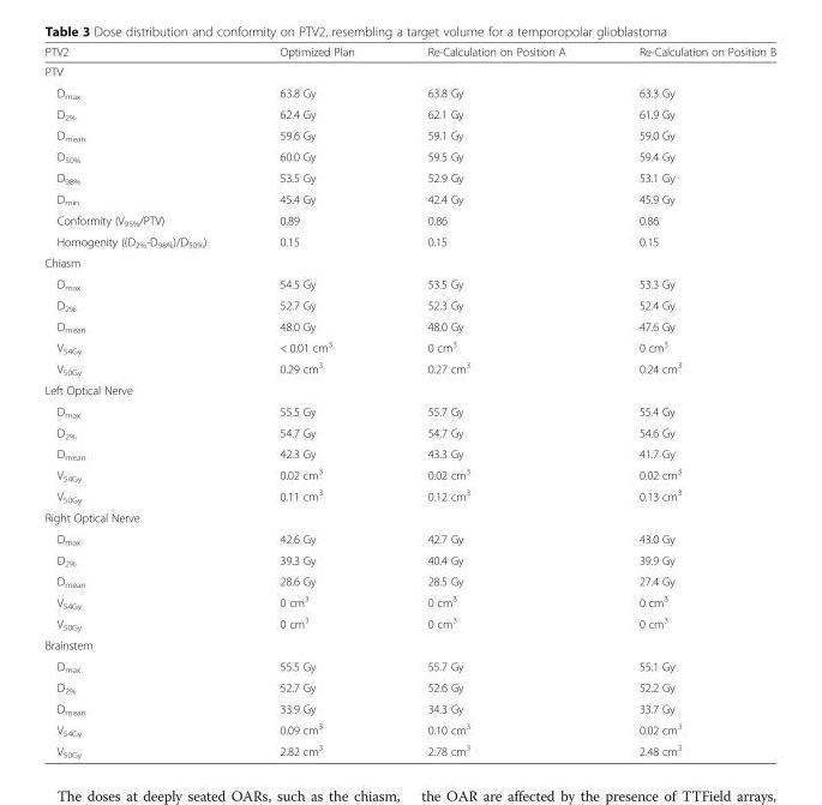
<table><thead><tr><td>PTV2</td><td>Optimized Plan</td><td>Re-Calculation on Position A</td><td>Re-Calculation on Position B</td></tr></thead><tbody><tr><td colspan="4">PTV</td></tr><tr><td>D<sub>max</sub></td><td>63.8 Gy</td><td>63.8 Gy</td><td>63.3 Gy</td></tr><tr><td>D<sub>2%</sub></td><td>62.4 Gy</td><td>62.1 Gy</td><td>61.9 Gy</td></tr><tr><td>D<sub>mean</sub></td><td>59.6 Gy</td><td>59.1 Gy</td><td>59.0 Gy</td></tr><tr><td>D<sub>50%</sub></td><td>60.0 Gy</td><td>59.5 Gy</td><td>59.4 Gy</td></tr><tr><td>D<sub>98%</sub></td><td>53.5 Gy</td><td>52.9 Gy</td><td>53.1 Gy</td></tr><tr><td>D<sub>min</sub></td><td>45.4 Gy</td><td>42.4 Gy</td><td>45.9 Gy</td></tr><tr><td>Conformity (V<sub>95%</sub>/PTV)</td><td>0.89</td><td>0.86</td><td>0.86</td></tr><tr><td>Homogenity ((D<sub>2%</sub>-D<sub>98%</sub>)/D<sub>50%</sub>)</td><td>0.15</td><td>0.15</td><td>0.15</td></tr><tr><td colspan="4">Chiasm</td></tr><tr><td>D<sub>max</sub></td><td>54.5 Gy</td><td>53.5 Gy</td><td>53.3 Gy</td></tr><tr><td>D<sub>2%</sub></td><td>52.7 Gy</td><td>52.3 Gy</td><td>52.4 Gy</td></tr><tr><td>D<sub>mean</sub></td><td>48.0 Gy</td><td>48.0 Gy</td><td>47.6 Gy</td></tr><tr><td>V<sub>54Gy</sub></td><td>&lt; 0.01 cm<sup>3</sup></td><td>0 cm<sup>3</sup></td><td>0 cm<sup>3</sup></td></tr><tr><td>V<sub>50Gy</sub></td><td>0.29 cm<sup>3</sup></td><td>0.27 cm<sup>3</sup></td><td>0.24 cm<sup>3</sup></td></tr><tr><td colspan="4">Left Optical Nerve</td></tr><tr><td>D<sub>max</sub></td><td>55.5 Gy</td><td>55.7 Gy</td><td>55.4 Gy</td></tr><tr><td>D<sub>2%</sub></td><td>54.7 Gy</td><td>54.7 Gy</td><td>54.6 Gy</td></tr><tr><td>D<sub>mean</sub></td><td>42.3 Gy</td><td>43.3 Gy</td><td>41.7 Gy</td></tr><tr><td>V<sub>54Gy</sub></td><td>0.02 cm<sup>3</sup></td><td>0.02 cm<sup>3</sup></td><td>0.02 cm<sup>3</sup></td></tr><tr><td>V<sub>50Gy</sub></td><td>0.11 cm<sup>3</sup></td><td>0.12 cm<sup>3</sup></td><td>0.13 cm<sup>3</sup></td></tr><tr><td colspan="4">Right Optical Nerve</td></tr><tr><td>D<sub>max</sub></td><td>42.6 Gy</td><td>42.7 Gy</td><td>43.0 Gy</td></tr><tr><td>D<sub>2%</sub></td><td>39.3 Gy</td><td>40.4 Gy</td><td>39.9 Gy</td></tr><tr><td>D<sub>mean</sub></td><td>28.6 Gy</td><td>28.5 Gy</td><td>27.4 Gy</td></tr><tr><td>V<sub>54Gy</sub></td><td>0 cm<sup>3</sup></td><td>0 cm<sup>3</sup></td><td>0 cm<sup>3</sup></td></tr><tr><td>V<sub>50Gy</sub></td><td>0 cm<sup>3</sup></td><td>0 cm<sup>3</sup></td><td>0 cm<sup>3</sup></td></tr><tr><td colspan="4">Brainstem</td></tr><tr><td>D<sub>max</sub></td><td>55.5 Gy</td><td>55.7 Gy</td><td>55.1 Gy</td></tr><tr><td>D<sub>2%</sub></td><td>52.7 Gy</td><td>52.6 Gy</td><td>52.2 Gy</td></tr><tr><td>D<sub>mean</sub></td><td>33.9 Gy</td><td>34.3 Gy</td><td>33.7 Gy</td></tr><tr><td>V<sub>54Gy</sub></td><td>0.09 cm<sup>3</sup></td><td>0.10 cm<sup>3</sup></td><td>0.02 cm<sup>3</sup></td></tr><tr><td>V<sub>50Gy</sub></td><td>2.82 cm<sup>3</sup></td><td>2.78 cm<sup>3</sup></td><td>2.48 cm<sup>3</sup></td></tr></tbody></table>